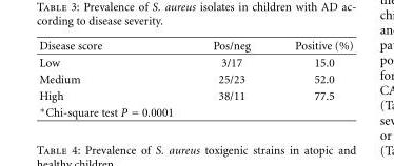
<table><thead><tr><td>Disease score</td><td>Pos/neg</td><td>Positive (%)</td></tr></thead><tbody><tr><td>Low</td><td>3/17</td><td>15.0</td></tr><tr><td>Medium</td><td>25/23</td><td>52.0</td></tr><tr><td>High</td><td>38/11</td><td>77.5</td></tr><tr><td>∗Chi-square test P = 0.0001</td><td></td><td></td></tr></tbody></table>